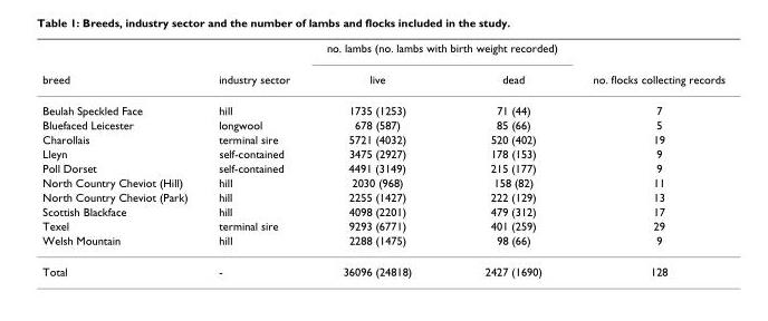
<table><thead><tr><td rowspan="2">breed</td><td rowspan="2">industry sector</td><td colspan="2">no. lambs (no. lambs with birth weight recorded)</td><td rowspan="2">no. flocks collecting records</td></tr><tr><td>live</td><td>dead</td></tr></thead><tbody><tr><td>Beulah Speckled Face</td><td>hill</td><td>1735 (1253)</td><td>71 (44)</td><td>7</td></tr><tr><td>Bluefaced Leicester</td><td>longwool</td><td>678 (587)</td><td>85 (66)</td><td>5</td></tr><tr><td>Charollais</td><td>terminal sire</td><td>5721 (4032)</td><td>520 (402)</td><td>19</td></tr><tr><td>Lleyn</td><td>self-contained</td><td>3475 (2927)</td><td>178 (153)</td><td>9</td></tr><tr><td>Poll Dorset</td><td>self-contained</td><td>4491 (3149)</td><td>215 (177)</td><td>9</td></tr><tr><td>North Country Cheviot (Hill)</td><td>hill</td><td>2030 (968)</td><td>158 (82)</td><td>11</td></tr><tr><td>North Country Cheviot (Park)</td><td>hill</td><td>2255 (1427)</td><td>222 (129)</td><td>13</td></tr><tr><td>Scottish Blackface</td><td>hill</td><td>4098 (2201)</td><td>479 (312)</td><td>17</td></tr><tr><td>Texel</td><td>terminal sire</td><td>9293 (6771)</td><td>401 (259)</td><td>29</td></tr><tr><td>Welsh Mountain</td><td>hill</td><td>2288 (1475)</td><td>98 (66)</td><td>9</td></tr><tr><td>Total</td><td>-</td><td>36096 (24818)</td><td>2427 (1690)</td><td>128</td></tr></tbody></table>